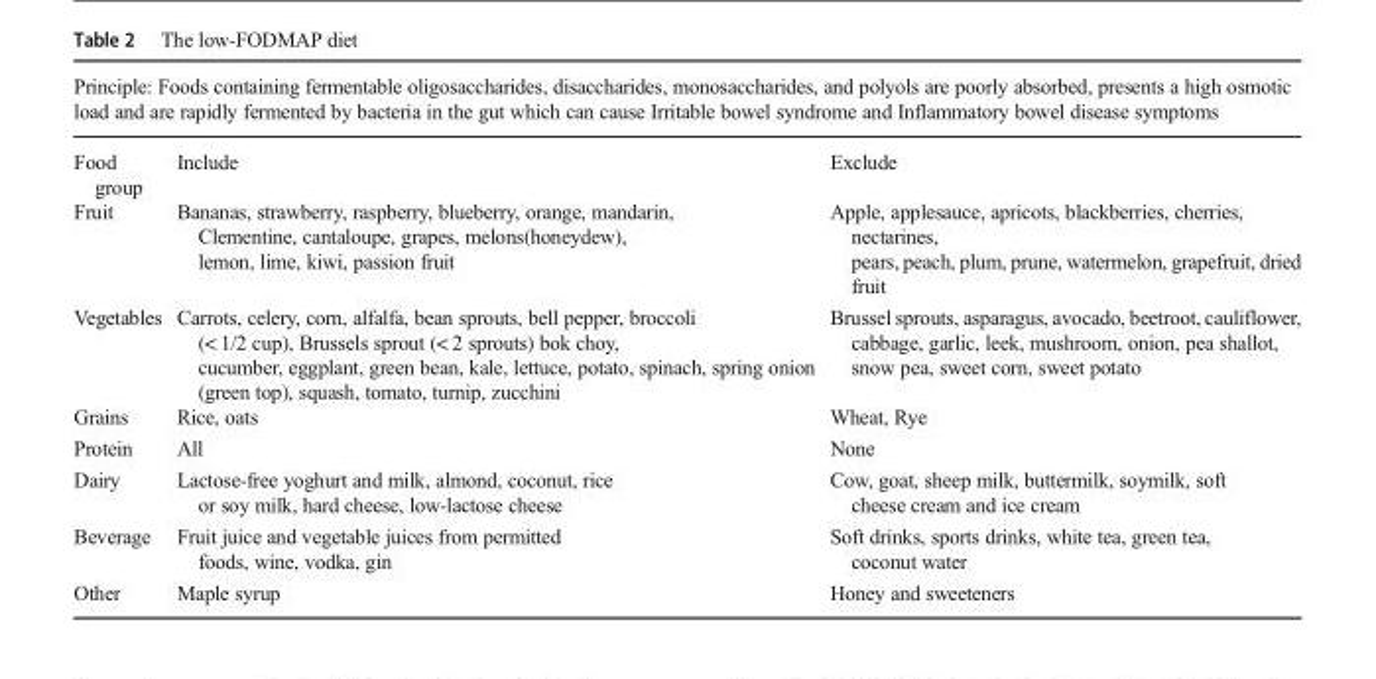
<table><thead><tr><td colspan="3">Principle: Foods containing fermentable oligosaccharides, disaccharides, monosaccharides, and polyols are poorly absorbed, presents a high osmotic load and are rapidly fermented by bacteria in the gut which can cause Irritable bowel syndrome and Inflammatory bowel disease symptoms</td></tr><tr><td>Food group</td><td>Include</td><td>Exclude</td></tr></thead><tbody><tr><td>Fruit</td><td>Bananas, strawberry, raspberry, blueberry, orange, mandarin, Clementine, cantaloupe, grapes, melons(honeydew), lemon, lime, kiwi, passion fruit</td><td>Apple, applesauce, apricots, blackberries, cherries, nectarines, pears, peach, plum, prune, watermelon, grapefruit, dried fruit</td></tr><tr><td>Vegetables</td><td>Carrots, celery, corn, alfalfa, bean sprouts, bell pepper, broccoli (&lt; 1/2 cup), Brussels sprout (&lt; 2 sprouts) bok choy, cucumber, eggplant, green bean, kale, lettuce, potato, spinach, spring onion (green top), squash, tomato, turnip, zucchini</td><td>Brussel sprouts, asparagus, avocado, beetroot, cauliflower, cabbage, garlic, leek, mushroom, onion, pea shallot, snow pea, sweet corn, sweet potato</td></tr><tr><td>Grains</td><td>Rice, oats</td><td>Wheat, Rye</td></tr><tr><td>Protein</td><td>All</td><td>None</td></tr><tr><td>Dairy</td><td>Lactose-free yoghurt and milk, almond, coconut, rice or soy milk, hard cheese, low-lactose cheese</td><td>Cow, goat, sheep milk, buttermilk, soymilk, soft cheese cream and ice cream</td></tr><tr><td>Beverage</td><td>Fruit juice and vegetable juices from permitted foods, wine, vodka, gin</td><td>Soft drinks, sports drinks, white tea, green tea, coconut water</td></tr><tr><td>Other</td><td>Maple syrup</td><td>Honey and sweeteners</td></tr></tbody></table>